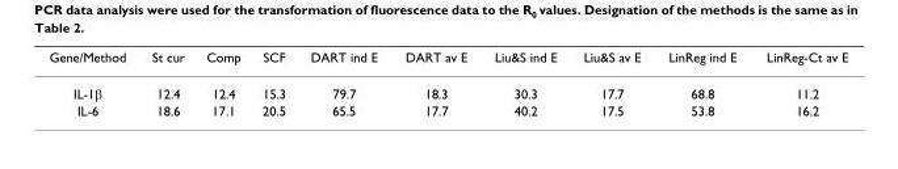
<table><thead><tr><td>Gene/Method</td><td>St cur</td><td>Comp</td><td>SCF</td><td>DART ind E</td><td>DART av E</td><td>Liu&amp;S ind E</td><td>Liu&amp;S av E</td><td>LinReg ind E</td><td>LinReg-Ct av E</td></tr></thead><tbody><tr><td>IL-1β</td><td>12.4</td><td>12.4</td><td>15.3</td><td>79.7</td><td>18.3</td><td>30.3</td><td>17.7</td><td>68.8</td><td>11.2</td></tr><tr><td>IL-6</td><td>18.6</td><td>17.1</td><td>20.5</td><td>65.5</td><td>17.7</td><td>40.2</td><td>17.5</td><td>53.8</td><td>16.2</td></tr></tbody></table>